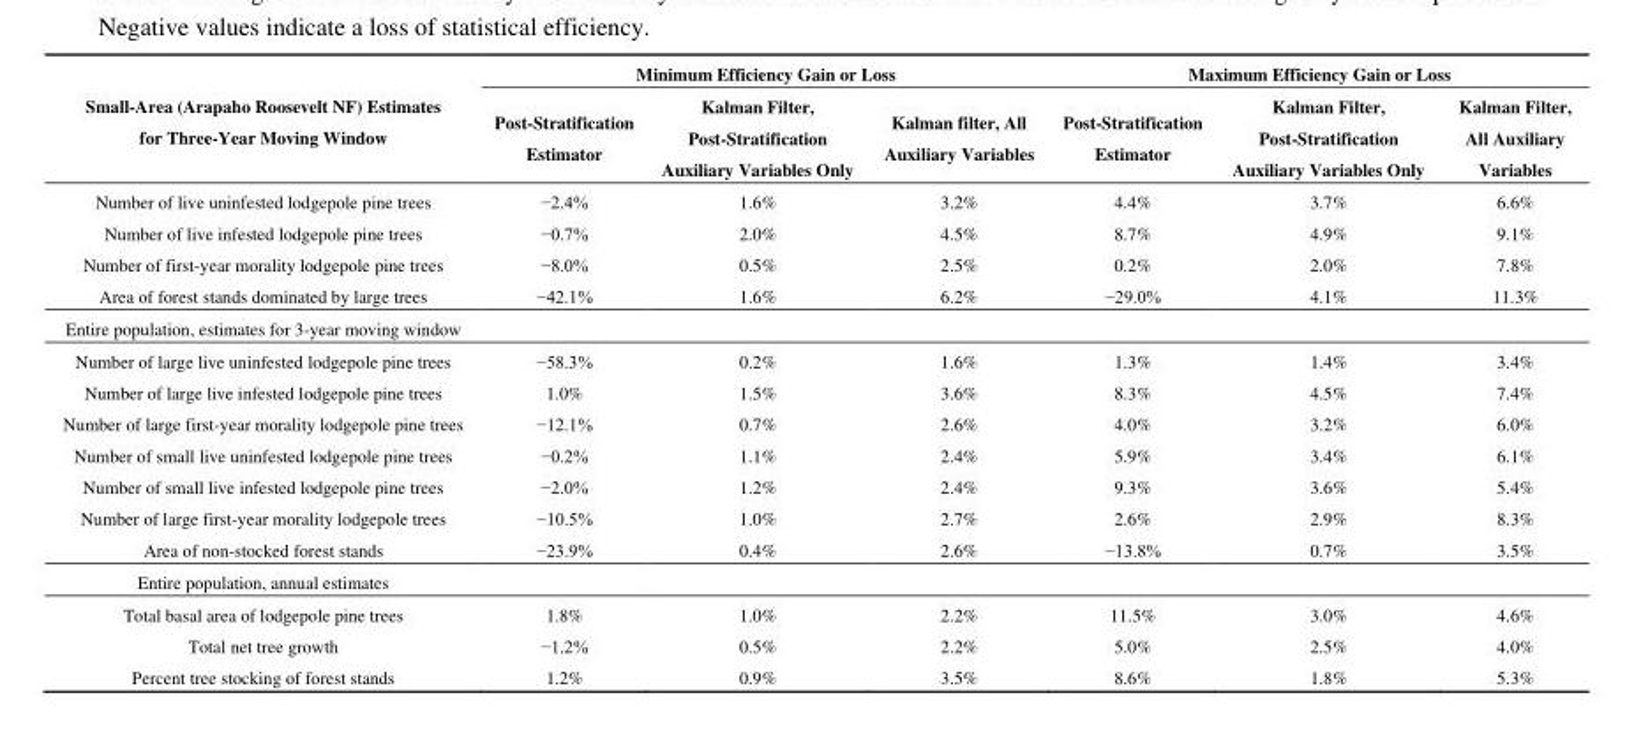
<table><thead><tr><td rowspan="2">Small-Area (Arapaho Roosevelt NF) Estimates for Three-Year Moving Window</td><td colspan="3">Minimum Efficiency Gain or Loss</td><td colspan="3">Maximum Efficiency Gain or Loss</td></tr><tr><td>Post-Stratification Estimator</td><td>Kalman Filter, Post-Stratification Auxiliary Variables Only</td><td>Kalman filter, All Auxiliary Variables</td><td>Post-Stratification Estimator</td><td>Kalman Filter, Post-Stratification Auxiliary Variables Only</td><td>Kalman Filter, All Auxiliary Variables</td></tr></thead><tbody><tr><td>Number of live uninfested lodgepole pine trees</td><td>−2.4%</td><td>1.6%</td><td>3.2%</td><td>4.4%</td><td>3.7%</td><td>6.6%</td></tr><tr><td>Number of live infested lodgepole pine trees</td><td>−0.7%</td><td>2.0%</td><td>4.5%</td><td>8.7%</td><td>4.9%</td><td>9.1%</td></tr><tr><td>Number of first-year morality lodgepole pine trees</td><td>−8.0%</td><td>0.5%</td><td>2.5%</td><td>0.2%</td><td>2.0%</td><td>7.8%</td></tr><tr><td>Area of forest stands dominated by large trees</td><td>−42.1%</td><td>1.6%</td><td>6.2%</td><td>−29.0%</td><td>4.1%</td><td>11.3%</td></tr><tr><td colspan="7">Entire population, estimates for 3-year moving window</td></tr><tr><td>Number of large live uninfested lodgepole pine trees</td><td>−58.3%</td><td>0.2%</td><td>1.6%</td><td>1.3%</td><td>1.4%</td><td>3.4%</td></tr><tr><td>Number of large live infested lodgepole pine trees</td><td>1.0%</td><td>1.5%</td><td>3.6%</td><td>8.3%</td><td>4.5%</td><td>7.4%</td></tr><tr><td>Number of large first-year morality lodgepole pine trees</td><td>−12.1%</td><td>0.7%</td><td>2.6%</td><td>4.0%</td><td>3.2%</td><td>6.0%</td></tr><tr><td>Number of small live uninfested lodgepole pine trees</td><td>−0.2%</td><td>1.1%</td><td>2.4%</td><td>5.9%</td><td>3.4%</td><td>6.1%</td></tr><tr><td>Number of small live infested lodgepole pine trees</td><td>−2.0%</td><td>1.2%</td><td>2.4%</td><td>9.3%</td><td>3.6%</td><td>5.4%</td></tr><tr><td>Number of large first-year morality lodgepole trees</td><td>−10.5%</td><td>1.0%</td><td>2.7%</td><td>2.6%</td><td>2.9%</td><td>8.3%</td></tr><tr><td>Area of non-stocked forest stands</td><td>−23.9%</td><td>0.4%</td><td>2.6%</td><td>−13.8%</td><td>0.7%</td><td>3.5%</td></tr><tr><td colspan="7">Entire population, annual estimates</td></tr><tr><td>Total basal area of lodgepole pine trees</td><td>1.8%</td><td>1.0%</td><td>2.2%</td><td>11.5%</td><td>3.0%</td><td>4.6%</td></tr><tr><td>Total net tree growth</td><td>−1.2%</td><td>0.5%</td><td>2.2%</td><td>5.0%</td><td>2.5%</td><td>4.0%</td></tr><tr><td>Percent tree stocking of forest stands</td><td>1.2%</td><td>0.9%</td><td>3.5%</td><td>8.6%</td><td>1.8%</td><td>5.3%</td></tr></tbody></table>